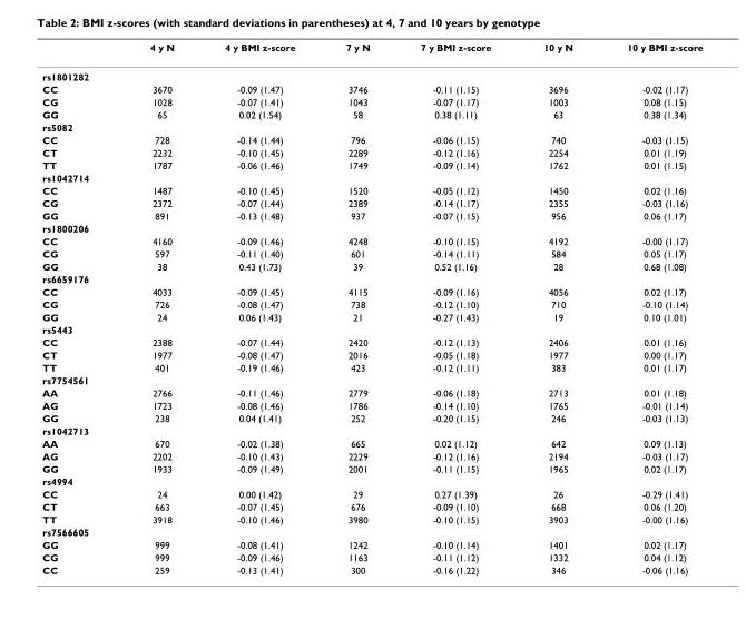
<table><thead><tr><td></td><td>4 y N</td><td>4 y BMI z-score</td><td>7 y N</td><td>7 y BMI z-score</td><td>10 y N</td><td>10 y BMI z-score</td></tr></thead><tbody><tr><td colspan="7">rs1801282</td></tr><tr><td>CC</td><td>3670</td><td>-0.09 (1.47)</td><td>3746</td><td>-0.11 (1.15)</td><td>3696</td><td>-0.02 (1.17)</td></tr><tr><td>CG</td><td>1028</td><td>-0.07 (1.41)</td><td>1043</td><td>-0.07 (1.17)</td><td>1003</td><td>0.08 (1.15)</td></tr><tr><td>GG</td><td>65</td><td>0.02 (1.54)</td><td>58</td><td>0.38 (1.11)</td><td>63</td><td>0.38 (1.34)</td></tr><tr><td colspan="7">rs5082</td></tr><tr><td>CC</td><td>728</td><td>-0.14 (1.44)</td><td>796</td><td>-0.06 (1.15)</td><td>740</td><td>-0.03 (1.15)</td></tr><tr><td>CT</td><td>2232</td><td>-0.10 (1.45)</td><td>2289</td><td>-0.12 (1.16)</td><td>2254</td><td>0.01 (1.19)</td></tr><tr><td>TT</td><td>1787</td><td>-0.06 (1.46)</td><td>1749</td><td>-0.09 (1.14)</td><td>1762</td><td>0.01 (1.15)</td></tr><tr><td colspan="7">rs1042714</td></tr><tr><td>CC</td><td>1487</td><td>-0.10 (1.45)</td><td>1520</td><td>-0.05 (1.12)</td><td>1450</td><td>0.02 (1.16)</td></tr><tr><td>CG</td><td>2372</td><td>-0.07 (1.44)</td><td>2389</td><td>-0.14 (1.17)</td><td>2355</td><td>-0.03 (1.16)</td></tr><tr><td>GG</td><td>891</td><td>-0.13 (1.48)</td><td>937</td><td>-0.07 (1.15)</td><td>956</td><td>0.06 (1.17)</td></tr><tr><td colspan="7">rs1800206</td></tr><tr><td>CC</td><td>4160</td><td>-0.09 (1.46)</td><td>4248</td><td>-0.10 (1.15)</td><td>4192</td><td>-0.00 (1.17)</td></tr><tr><td>CG</td><td>597</td><td>-0.11 (1.40)</td><td>601</td><td>-0.14 (1.11)</td><td>584</td><td>0.05 (1.17)</td></tr><tr><td>GG</td><td>38</td><td>0.43 (1.73)</td><td>39</td><td>0.52 (1.16)</td><td>28</td><td>0.68 (1.08)</td></tr><tr><td colspan="7">rs6659176</td></tr><tr><td>CC</td><td>4033</td><td>-0.09 (1.45)</td><td>4115</td><td>-0.09 (1.16)</td><td>4056</td><td>0.02 (1.17)</td></tr><tr><td>CG</td><td>726</td><td>-0.08 (1.47)</td><td>738</td><td>-0.12 (1.10)</td><td>710</td><td>-0.10 (1.14)</td></tr><tr><td>GG</td><td>24</td><td>0.06 (1.43)</td><td>21</td><td>-0.27 (1.43)</td><td>19</td><td>0.10 (1.01)</td></tr><tr><td colspan="7">rs5443</td></tr><tr><td>CC</td><td>2388</td><td>-0.07 (1.44)</td><td>2420</td><td>-0.12 (1.13)</td><td>2406</td><td>0.01 (1.16)</td></tr><tr><td>CT</td><td>1977</td><td>-0.08 (1.47)</td><td>2016</td><td>-0.05 (1.18)</td><td>1977</td><td>0.00 (1.17)</td></tr><tr><td>TT</td><td>401</td><td>-0.19 (1.46)</td><td>423</td><td>-0.12 (1.11)</td><td>383</td><td>0.01 (1.17)</td></tr><tr><td colspan="7">rs7754561</td></tr><tr><td>AA</td><td>2766</td><td>-0.11 (1.46)</td><td>2779</td><td>-0.06 (1.18)</td><td>2713</td><td>0.01 (1.18)</td></tr><tr><td>AG</td><td>1723</td><td>-0.08 (1.46)</td><td>1786</td><td>-0.14 (1.10)</td><td>1765</td><td>-0.01 (1.14)</td></tr><tr><td>GG</td><td>238</td><td>0.04 (1.41)</td><td>252</td><td>-0.20 (1.15)</td><td>246</td><td>-0.03 (1.13)</td></tr><tr><td colspan="7">rs1042713</td></tr><tr><td>AA</td><td>670</td><td>-0.02 (1.38)</td><td>665</td><td>0.02 (1.12)</td><td>642</td><td>0.09 (1.13)</td></tr><tr><td>AG</td><td>2202</td><td>-0.10 (1.43)</td><td>2229</td><td>-0.12 (1.16)</td><td>2194</td><td>-0.03 (1.17)</td></tr><tr><td>GG</td><td>1933</td><td>-0.09 (1.49)</td><td>2001</td><td>-0.11 (1.15)</td><td>1965</td><td>0.02 (1.17)</td></tr><tr><td colspan="7">rs4994</td></tr><tr><td>CC</td><td>24</td><td>0.00 (1.42)</td><td>29</td><td>0.27 (1.39)</td><td>26</td><td>-0.29 (1.41)</td></tr><tr><td>CT</td><td>663</td><td>-0.07 (1.45)</td><td>676</td><td>-0.09 (1.10)</td><td>668</td><td>0.06 (1.20)</td></tr><tr><td>TT</td><td>3918</td><td>-0.10 (1.46)</td><td>3980</td><td>-0.10 (1.15)</td><td>3903</td><td>-0.00 (1.16)</td></tr><tr><td colspan="7">rs7566605</td></tr><tr><td>GG</td><td>999</td><td>-0.08 (1.41)</td><td>1242</td><td>-0.10 (1.14)</td><td>1401</td><td>0.02 (1.17)</td></tr><tr><td>CG</td><td>999</td><td>-0.09 (1.46)</td><td>1163</td><td>-0.11 (1.12)</td><td>1332</td><td>0.04 (1.12)</td></tr><tr><td>CC</td><td>259</td><td>-0.13 (1.41)</td><td>300</td><td>-0.16 (1.22)</td><td>346</td><td>-0.06 (1.16)</td></tr></tbody></table>